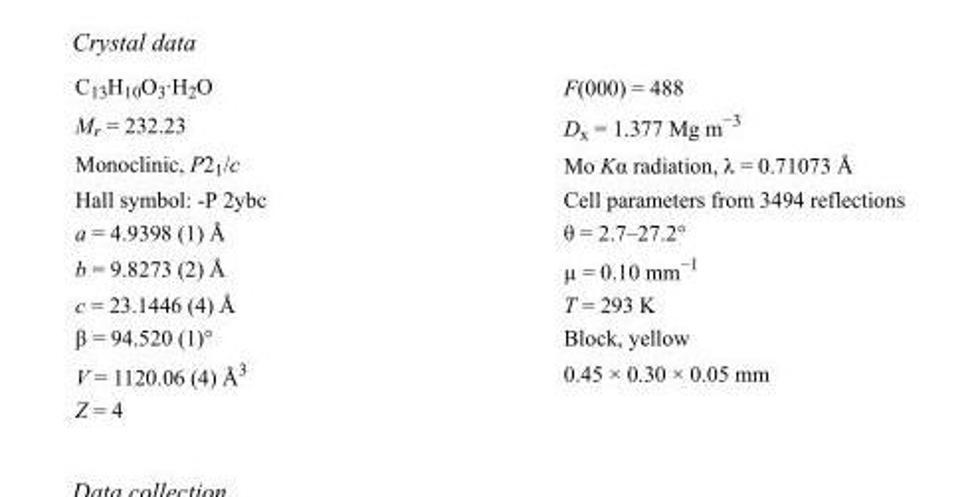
<table><tbody><tr><td>C<sub>13</sub>H<sub>10</sub>O<sub>3</sub>·H<sub>2</sub>O</td><td>F(000) = 488</td></tr><tr><td>M<sub>r</sub> = 232.23</td><td>D<sub>x</sub> = 1.377 Mg m<sup>−3</sup></td></tr><tr><td>Monoclinic, P2<sub>1</sub>/c</td><td>Mo Kα radiation, λ = 0.71073 Å</td></tr><tr><td>Hall symbol: -P 2ybc</td><td>Cell parameters from 3494 reflections</td></tr><tr><td>a = 4.9398 (1) Å</td><td>θ = 2.7–27.2°</td></tr><tr><td>b = 9.8273 (2) Å</td><td>µ = 0.10 mm<sup>−1</sup></td></tr><tr><td>c = 23.1446 (4) Å</td><td>T = 293 K</td></tr><tr><td>β = 94.520 (1)°</td><td>Block, yellow</td></tr><tr><td>V = 1120.06 (4) Å<sup>3</sup></td><td>0.45 × 0.30 × 0.05 mm</td></tr><tr><td>Z = 4</td><td></td></tr></tbody></table>